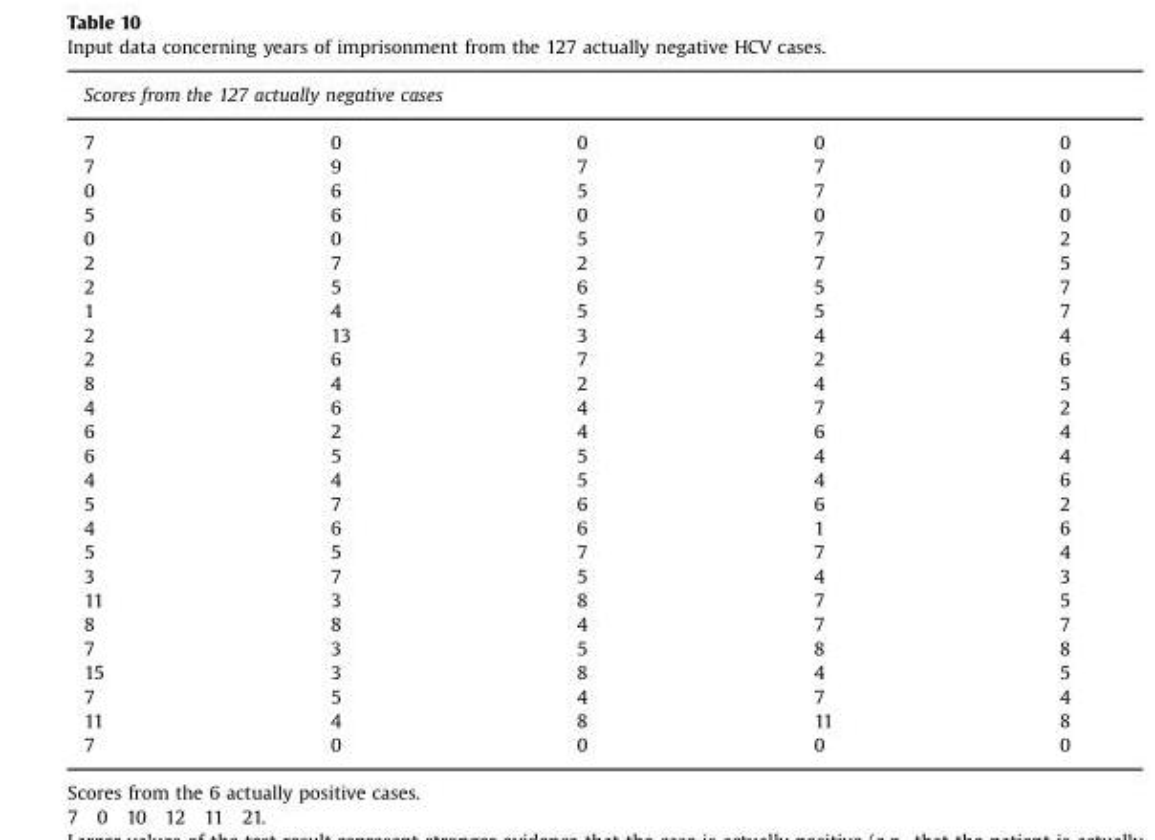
<table><thead><tr><td colspan="5">Scores from the 127 actually negative cases</td></tr><tr><td>7</td><td>0</td><td>0</td><td>0</td><td>0</td></tr></thead><tbody><tr><td>7</td><td>9</td><td>7</td><td>7</td><td>0</td></tr><tr><td>0</td><td>6</td><td>5</td><td>7</td><td>0</td></tr><tr><td>5</td><td>6</td><td>0</td><td>0</td><td>0</td></tr><tr><td>0</td><td>0</td><td>5</td><td>7</td><td>2</td></tr><tr><td>2</td><td>7</td><td>2</td><td>7</td><td>5</td></tr><tr><td>2</td><td>5</td><td>6</td><td>5</td><td>7</td></tr><tr><td>1</td><td>4</td><td>5</td><td>5</td><td>7</td></tr><tr><td>2</td><td>13</td><td>3</td><td>4</td><td>4</td></tr><tr><td>2</td><td>6</td><td>7</td><td>2</td><td>6</td></tr><tr><td>8</td><td>4</td><td>2</td><td>4</td><td>5</td></tr><tr><td>4</td><td>6</td><td>4</td><td>7</td><td>2</td></tr><tr><td>6</td><td>2</td><td>4</td><td>6</td><td>4</td></tr><tr><td>6</td><td>5</td><td>5</td><td>4</td><td>4</td></tr><tr><td>4</td><td>4</td><td>5</td><td>4</td><td>6</td></tr><tr><td>5</td><td>7</td><td>6</td><td>6</td><td>2</td></tr><tr><td>4</td><td>6</td><td>6</td><td>1</td><td>6</td></tr><tr><td>5</td><td>5</td><td>7</td><td>7</td><td>4</td></tr><tr><td>3</td><td>7</td><td>5</td><td>4</td><td>3</td></tr><tr><td>11</td><td>3</td><td>8</td><td>7</td><td>5</td></tr><tr><td>8</td><td>8</td><td>4</td><td>7</td><td>7</td></tr><tr><td>7</td><td>3</td><td>5</td><td>8</td><td>8</td></tr><tr><td>15</td><td>3</td><td>8</td><td>4</td><td>5</td></tr><tr><td>7</td><td>5</td><td>4</td><td>7</td><td>4</td></tr><tr><td>11</td><td>4</td><td>8</td><td>11</td><td>8</td></tr><tr><td>7</td><td>0</td><td>0</td><td>0</td><td>0</td></tr></tbody></table>